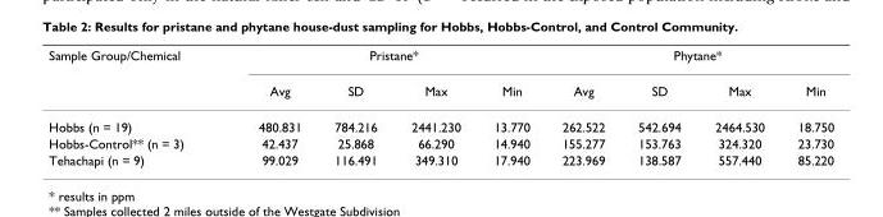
<table><thead><tr><td rowspan="2">Sample Group/Chemical</td><td colspan="4">Pristane*</td><td colspan="4">Phytane*</td></tr><tr><td>Avg</td><td>SD</td><td>Max</td><td>Min</td><td>Avg</td><td>SD</td><td>Max</td><td>Min</td></tr></thead><tbody><tr><td>Hobbs (n = 19)</td><td>480.831</td><td>784.216</td><td>2441.230</td><td>13.770</td><td>262.522</td><td>542.694</td><td>2464.530</td><td>18.750</td></tr><tr><td>Hobbs-Control** (n = 3)</td><td>42.437</td><td>25.868</td><td>66.290</td><td>14.940</td><td>155.277</td><td>153.763</td><td>324.320</td><td>23.730</td></tr><tr><td>Tehachapi (n = 9)</td><td>99.029</td><td>116.491</td><td>349.310</td><td>17.940</td><td>223.969</td><td>138.587</td><td>557.440</td><td>85.220</td></tr></tbody></table>